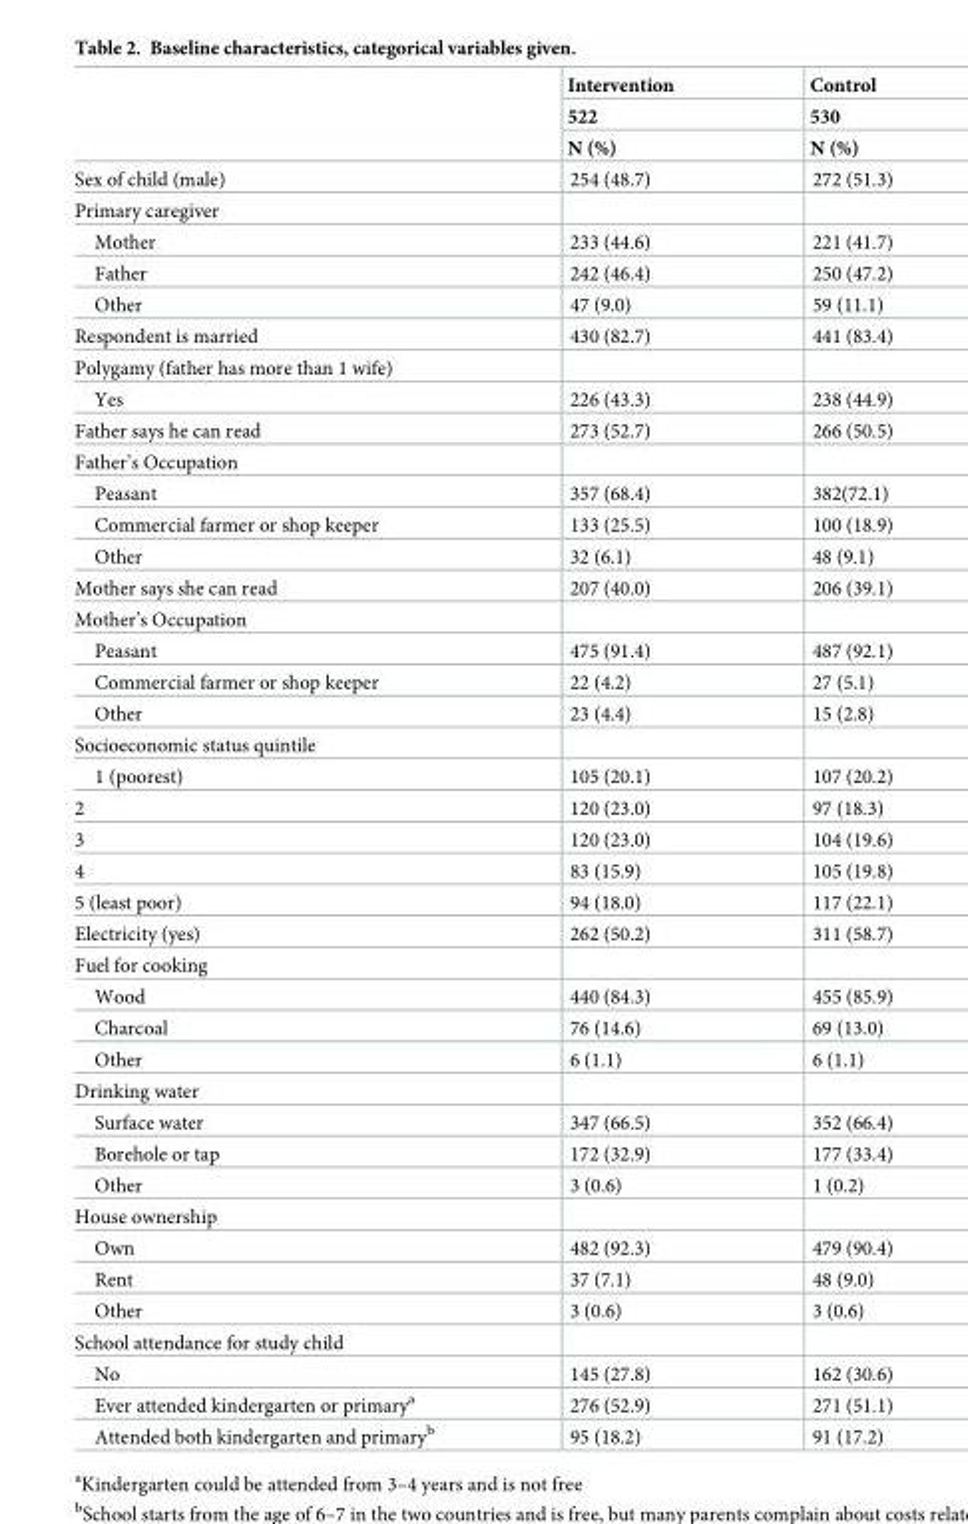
<table><thead><tr><td rowspan="3"></td><td rowspan="3">Intervention 522 N (%)</td><td rowspan="3">Control 530 N (%)</td></tr><tr></tr><tr></tr></thead><tbody><tr><td>Sex of child (male)</td><td>254 (48.7)</td><td>272 (51.3)</td></tr><tr><td colspan="3">Primary caregiver</td></tr><tr><td>Mother</td><td>233 (44.6)</td><td>221 (41.7)</td></tr><tr><td>Father</td><td>242 (46.4)</td><td>250 (47.2)</td></tr><tr><td>Other</td><td>47 (9.0)</td><td>59 (11.1)</td></tr><tr><td>Respondent is married</td><td>430 (82.7)</td><td>441 (83.4)</td></tr><tr><td colspan="3">Polygamy (father has more than 1 wife)</td></tr><tr><td>Yes</td><td>226 (43.3)</td><td>238 (44.9)</td></tr><tr><td>Father says he can read</td><td>273 (52.7)</td><td>266 (50.5)</td></tr><tr><td colspan="3">Father’s Occupation</td></tr><tr><td>Peasant</td><td>357 (68.4)</td><td>382(72.1)</td></tr><tr><td>Commercial farmer or shop keeper</td><td>133 (25.5)</td><td>100 (18.9)</td></tr><tr><td>Other</td><td>32 (6.1)</td><td>48 (9.1)</td></tr><tr><td>Mother says she can read</td><td>207 (40.0)</td><td>206 (39.1)</td></tr><tr><td colspan="3">Mother’s Occupation</td></tr><tr><td>Peasant</td><td>475 (91.4)</td><td>487 (92.1)</td></tr><tr><td>Commercial farmer or shop keeper</td><td>22 (4.2)</td><td>27 (5.1)</td></tr><tr><td>Other</td><td>23 (4.4)</td><td>15 (2.8)</td></tr><tr><td colspan="3">Socioeconomic status quintile</td></tr><tr><td>1 (poorest)</td><td>105 (20.1)</td><td>107 (20.2)</td></tr><tr><td>2</td><td>120 (23.0)</td><td>97 (18.3)</td></tr><tr><td>3</td><td>120 (23.0)</td><td>104 (19.6)</td></tr><tr><td>4</td><td>83 (15.9)</td><td>105 (19.8)</td></tr><tr><td>5 (least poor)</td><td>94 (18.0)</td><td>117 (22.1)</td></tr><tr><td>Electricity (yes)</td><td>262 (50.2)</td><td>311 (58.7)</td></tr><tr><td colspan="3">Fuel for cooking</td></tr><tr><td>Wood</td><td>440 (84.3)</td><td>455 (85.9)</td></tr><tr><td>Charcoal</td><td>76 (14.6)</td><td>69 (13.0)</td></tr><tr><td>Other</td><td>6 (1.1)</td><td>6 (1.1)</td></tr><tr><td colspan="3">Drinking water</td></tr><tr><td>Surface water</td><td>347 (66.5)</td><td>352 (66.4)</td></tr><tr><td>Borehole or tap</td><td>172 (32.9)</td><td>177 (33.4)</td></tr><tr><td>Other</td><td>3 (0.6)</td><td>1 (0.2)</td></tr><tr><td colspan="3">House ownership</td></tr><tr><td>Own</td><td>482 (92.3)</td><td>479 (90.4)</td></tr><tr><td>Rent</td><td>37 (7.1)</td><td>48 (9.0)</td></tr><tr><td>Other</td><td>3 (0.6)</td><td>3 (0.6)</td></tr><tr><td colspan="3">School attendance for study child</td></tr><tr><td>No</td><td>145 (27.8)</td><td>162 (30.6)</td></tr><tr><td>Ever attended kindergarten or primary<sup>a</sup></td><td>276 (52.9)</td><td>271 (51.1)</td></tr><tr><td>Attended both kindergarten and primary<sup>b</sup></td><td>95 (18.2)</td><td>91 (17.2)</td></tr></tbody></table>